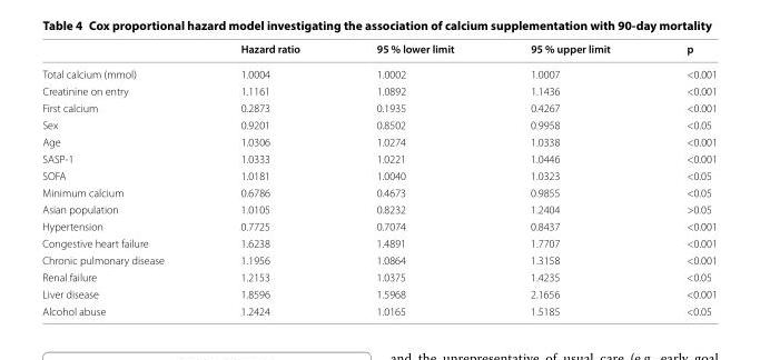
<table><thead><tr><td></td><td>Hazard ratio</td><td>95 % lower limit</td><td>95 % upper limit</td><td>p</td></tr></thead><tbody><tr><td>Total calcium (mmol)</td><td>1.0004</td><td>1.0002</td><td>1.0007</td><td>&lt;0.001</td></tr><tr><td>Creatinine on entry</td><td>1.1161</td><td>1.0892</td><td>1.1436</td><td>&lt;0.001</td></tr><tr><td>First calcium</td><td>0.2873</td><td>0.1935</td><td>0.4267</td><td>&lt;0.001</td></tr><tr><td>Sex</td><td>0.9201</td><td>0.8502</td><td>0.9958</td><td>&lt;0.05</td></tr><tr><td>Age</td><td>1.0306</td><td>1.0274</td><td>1.0338</td><td>&lt;0.001</td></tr><tr><td>SASP-1</td><td>1.0333</td><td>1.0221</td><td>1.0446</td><td>&lt;0.001</td></tr><tr><td>SOFA</td><td>1.0181</td><td>1.0040</td><td>1.0323</td><td>&lt;0.05</td></tr><tr><td>Minimum calcium</td><td>0.6786</td><td>0.4673</td><td>0.9855</td><td>&lt;0.05</td></tr><tr><td>Asian population</td><td>1.0105</td><td>0.8232</td><td>1.2404</td><td>&gt;0.05</td></tr><tr><td>Hypertension</td><td>0.7725</td><td>0.7074</td><td>0.8437</td><td>&lt;0.001</td></tr><tr><td>Congestive heart failure</td><td>1.6238</td><td>1.4891</td><td>1.7707</td><td>&lt;0.001</td></tr><tr><td>Chronic pulmonary disease</td><td>1.1956</td><td>1.0864</td><td>1.3158</td><td>&lt;0.001</td></tr><tr><td>Renal failure</td><td>1.2153</td><td>1.0375</td><td>1.4235</td><td>&lt;0.05</td></tr><tr><td>Liver disease</td><td>1.8596</td><td>1.5968</td><td>2.1656</td><td>&lt;0.001</td></tr><tr><td>Alcohol abuse</td><td>1.2424</td><td>1.0165</td><td>1.5185</td><td>&lt;0.05</td></tr></tbody></table>